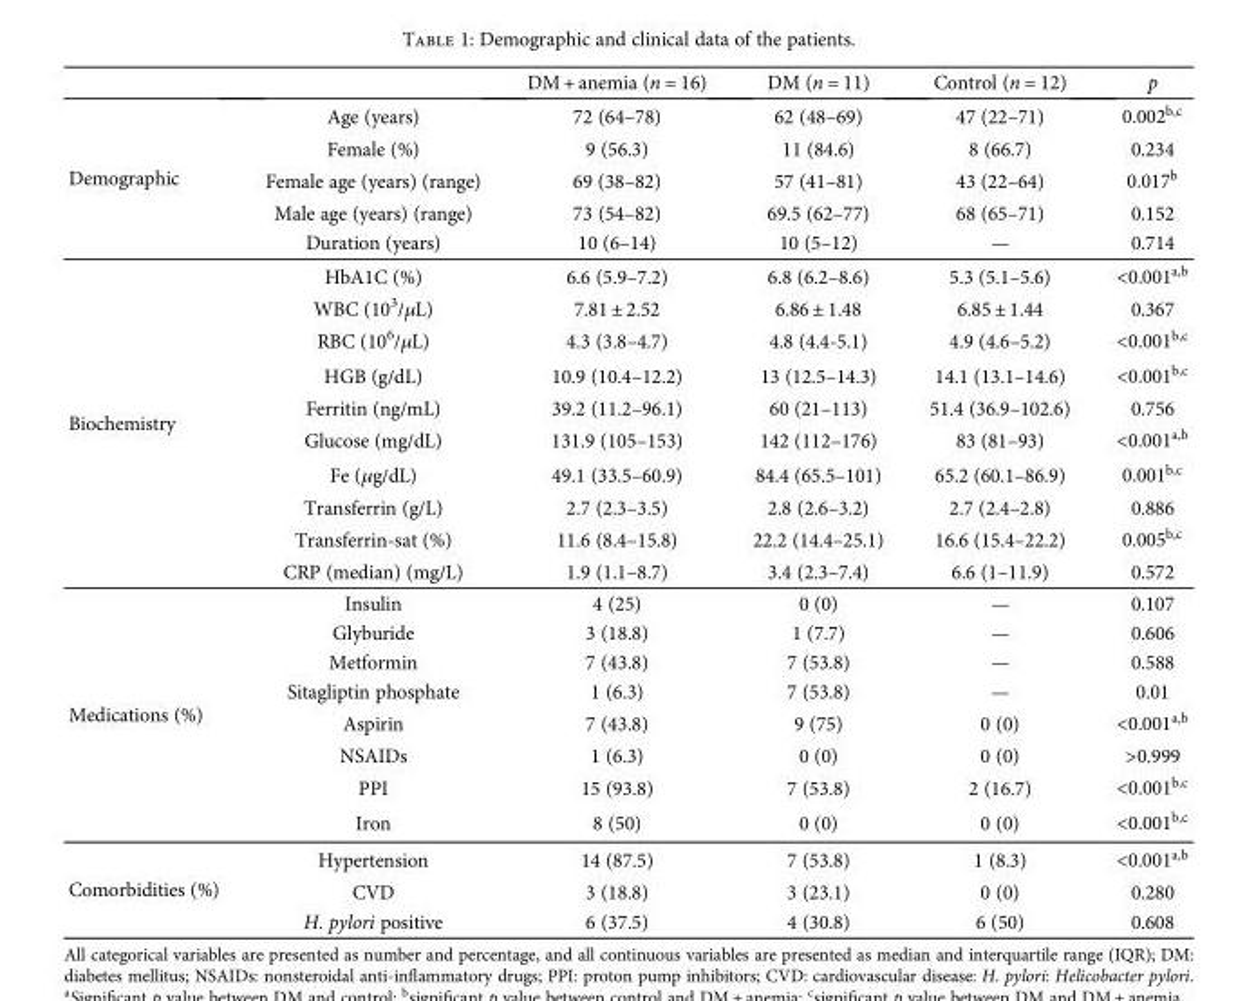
<table><thead><tr><td></td><td></td><td>DM + anemia (n = 16)</td><td>DM (n = 11)</td><td>Control (n = 12)</td><td>p</td></tr></thead><tbody><tr><td rowspan="5">Demographic</td><td>Age (years)</td><td>72 (64–78)</td><td>62 (48–69)</td><td>47 (22–71)</td><td>0.002<sup>b,c</sup></td></tr><tr><td>Female (%)</td><td>9 (56.3)</td><td>11 (84.6)</td><td>8 (66.7)</td><td>0.234</td></tr><tr><td>Female age (years) (range)</td><td>69 (38–82)</td><td>57 (41–81)</td><td>43 (22–64)</td><td>0.017<sup>b</sup></td></tr><tr><td>Male age (years) (range)</td><td>73 (54–82)</td><td>69.5 (62–77)</td><td>68 (65–71)</td><td>0.152</td></tr><tr><td>Duration (years)</td><td>10 (6–14)</td><td>10 (5–12)</td><td>—</td><td>0.714</td></tr><tr><td rowspan="10">Biochemistry</td><td>HbA1C (%)</td><td>6.6 (5.9–7.2)</td><td>6.8 (6.2–8.6)</td><td>5.3 (5.1–5.6)</td><td>&lt;0.001<sup>a,b</sup></td></tr><tr><td>WBC (10<sup>3</sup>/μL)</td><td>7.81 ± 2.52</td><td>6.86 ± 1.48</td><td>6.85 ± 1.44</td><td>0.367</td></tr><tr><td>RBC (10<sup>6</sup>/μL)</td><td>4.3 (3.8–4.7)</td><td>4.8 (4.4-5.1)</td><td>4.9 (4.6–5.2)</td><td>&lt;0.001<sup>b,c</sup></td></tr><tr><td>HGB (g/dL)</td><td>10.9 (10.4–12.2)</td><td>13 (12.5–14.3)</td><td>14.1 (13.1–14.6)</td><td>&lt;0.001<sup>b,c</sup></td></tr><tr><td>Ferritin (ng/mL)</td><td>39.2 (11.2–96.1)</td><td>60 (21–113)</td><td>51.4 (36.9–102.6)</td><td>0.756</td></tr><tr><td>Glucose (mg/dL)</td><td>131.9 (105–153)</td><td>142 (112–176)</td><td>83 (81–93)</td><td>&lt;0.001<sup>a,b</sup></td></tr><tr><td>Fe (μg/dL)</td><td>49.1 (33.5–60.9)</td><td>84.4 (65.5–101)</td><td>65.2 (60.1–86.9)</td><td>0.001<sup>b,c</sup></td></tr><tr><td>Transferrin (g/L)</td><td>2.7 (2.3–3.5)</td><td>2.8 (2.6–3.2)</td><td>2.7 (2.4–2.8)</td><td>0.886</td></tr><tr><td>Transferrin-sat (%)</td><td>11.6 (8.4–15.8)</td><td>22.2 (14.4–25.1)</td><td>16.6 (15.4–22.2)</td><td>0.005<sup>b,c</sup></td></tr><tr><td>CRP (median) (mg/L)</td><td>1.9 (1.1–8.7)</td><td>3.4 (2.3–7.4)</td><td>6.6 (1–11.9)</td><td>0.572</td></tr><tr><td rowspan="8">Medications (%)</td><td>Insulin</td><td>4 (25)</td><td>0 (0)</td><td>—</td><td>0.107</td></tr><tr><td>Glyburide</td><td>3 (18.8)</td><td>1 (7.7)</td><td>—</td><td>0.606</td></tr><tr><td>Metformin</td><td>7 (43.8)</td><td>7 (53.8)</td><td>—</td><td>0.588</td></tr><tr><td>Sitagliptin phosphate</td><td>1 (6.3)</td><td>7 (53.8)</td><td>—</td><td>0.01</td></tr><tr><td>Aspirin</td><td>7 (43.8)</td><td>9 (75)</td><td>0 (0)</td><td>&lt;0.001<sup>a,b</sup></td></tr><tr><td>NSAIDs</td><td>1 (6.3)</td><td>0 (0)</td><td>0 (0)</td><td>&gt;0.999</td></tr><tr><td>PPI</td><td>15 (93.8)</td><td>7 (53.8)</td><td>2 (16.7)</td><td>&lt;0.001<sup>b,c</sup></td></tr><tr><td>Iron</td><td>8 (50)</td><td>0 (0)</td><td>0 (0)</td><td>&lt;0.001<sup>b,c</sup></td></tr><tr><td rowspan="3">Comorbidities (%)</td><td>Hypertension</td><td>14 (87.5)</td><td>7 (53.8)</td><td>1 (8.3)</td><td>&lt;0.001<sup>a,b</sup></td></tr><tr><td>CVD</td><td>3 (18.8)</td><td>3 (23.1)</td><td>0 (0)</td><td>0.280</td></tr><tr><td>H. pylori positive</td><td>6 (37.5)</td><td>4 (30.8)</td><td>6 (50)</td><td>0.608</td></tr></tbody></table>